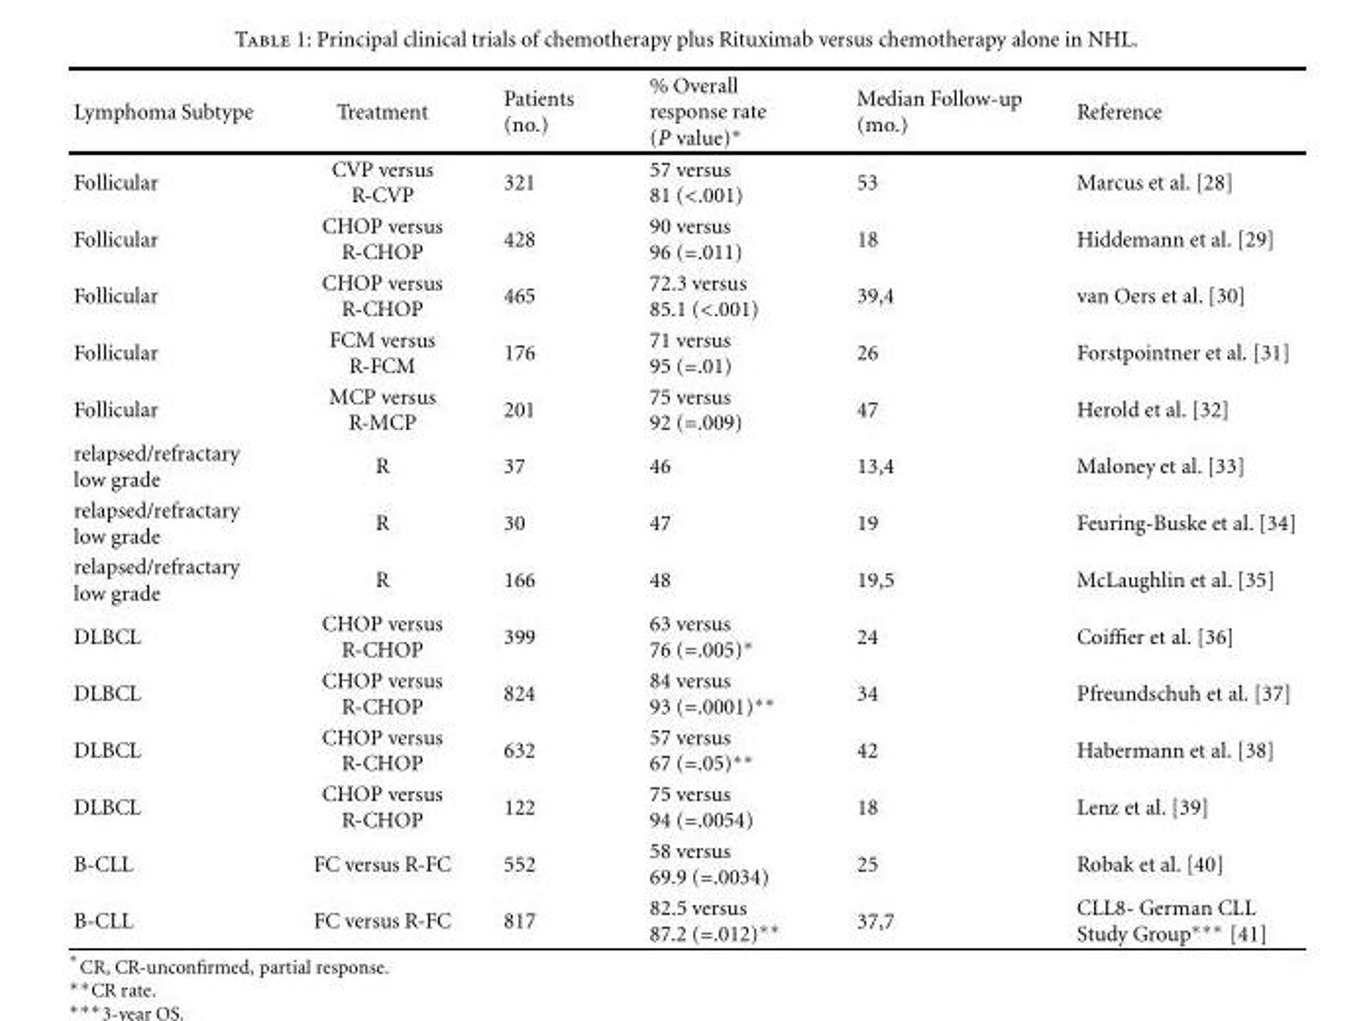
<table><thead><tr><td>Lymphoma Subtype</td><td>Treatment</td><td>Patients (no.)</td><td>% Overall response rate (P value)∗</td><td>Median Follow-up (mo.)</td><td>Reference</td></tr></thead><tbody><tr><td>Follicular</td><td>CVP versus R-CVP</td><td>321</td><td>57 versus 81 (&lt;.001)</td><td>53</td><td>Marcus et al. [28]</td></tr><tr><td>Follicular</td><td>CHOP versus R-CHOP</td><td>428</td><td>90 versus 96 (=.011)</td><td>18</td><td>Hiddemann et al. [29]</td></tr><tr><td>Follicular</td><td>CHOP versus R-CHOP</td><td>465</td><td>72.3 versus 85.1 (&lt;.001)</td><td>39,4</td><td>van Oers et al. [30]</td></tr><tr><td>Follicular</td><td>FCM versus R-FCM</td><td>176</td><td>71 versus 95 (=.01)</td><td>26</td><td>Forstpointner et al. [31]</td></tr><tr><td>Follicular</td><td>MCP versus R-MCP</td><td>201</td><td>75 versus 92 (=.009)</td><td>47</td><td>Herold et al. [32]</td></tr><tr><td>relapsed/refractary low grade</td><td>R</td><td>37</td><td>46</td><td>13,4</td><td>Maloney et al. [33]</td></tr><tr><td>relapsed/refractary low grade</td><td>R</td><td>30</td><td>47</td><td>19</td><td>Feuring-Buske et al. [34]</td></tr><tr><td>relapsed/refractary low grade</td><td>R</td><td>166</td><td>48</td><td>19,5</td><td>McLaughlin et al. [35]</td></tr><tr><td>DLBCL</td><td>CHOP versus R-CHOP</td><td>399</td><td>63 versus 76 (=.005)∗</td><td>24</td><td>Coiffier et al. [36]</td></tr><tr><td>DLBCL</td><td>CHOP versus R-CHOP</td><td>824</td><td>84 versus 93 (=.0001)∗∗</td><td>34</td><td>Pfreundschuh et al. [37]</td></tr><tr><td>DLBCL</td><td>CHOP versus R-CHOP</td><td>632</td><td>57 versus 67 (=.05)∗∗</td><td>42</td><td>Habermann et al. [38]</td></tr><tr><td>DLBCL</td><td>CHOP versus R-CHOP</td><td>122</td><td>75 versus 94 (=.0054)</td><td>18</td><td>Lenz et al. [39]</td></tr><tr><td>B-CLL</td><td>FC versus R-FC</td><td>552</td><td>58 versus 69.9 (=.0034)</td><td>25</td><td>Robak et al. [40]</td></tr><tr><td>B-CLL</td><td>FC versus R-FC</td><td>817</td><td>82.5 versus 87.2 (=.012)∗∗</td><td>37,7</td><td>CLL8- German CLL Study Group∗∗∗ [41]</td></tr></tbody></table>